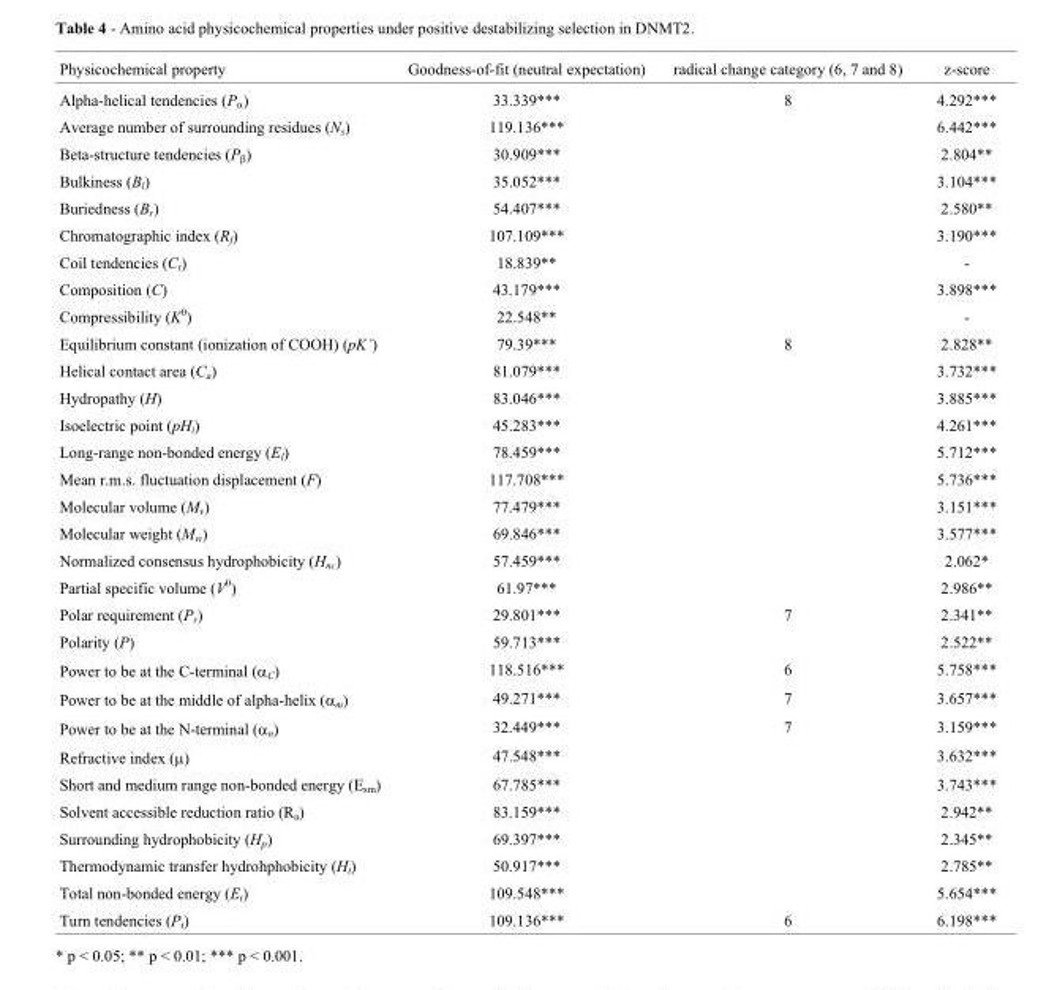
<table><thead><tr><td>Physicochemical property</td><td>Goodness-of-fit (neutral expectation)</td><td>radical change category (6, 7 and 8)</td><td>z-score</td></tr></thead><tbody><tr><td>Alpha-helical tendencies (P<sub>a</sub>)</td><td>33.339***</td><td>8</td><td>4.292***</td></tr><tr><td>Average number of surrounding residues (N<sub>s</sub>)</td><td>119.136***</td><td></td><td>6.442***</td></tr><tr><td>Beta-structure tendencies (P<sub>b</sub>)</td><td>30.909***</td><td></td><td>2.804**</td></tr><tr><td>Bulkiness (B<sub>l</sub>)</td><td>35.052***</td><td></td><td>3.104***</td></tr><tr><td>Buriedness (B<sub>r</sub>)</td><td>54.407***</td><td></td><td>2.580**</td></tr><tr><td>Chromatographic index (R<sub>f</sub>)</td><td>107.109***</td><td></td><td>3.190***</td></tr><tr><td>Coil tendencies (C<sub>t</sub>)</td><td>18.839**</td><td></td><td>-</td></tr><tr><td>Composition (C)</td><td>43.179***</td><td></td><td>3.898***</td></tr><tr><td>Compressibility (K<sup>0</sup>)</td><td>22.548**</td><td></td><td>-</td></tr><tr><td>Equilibrium constant (ionization of COOH) (pK’)</td><td>79.39***</td><td>8</td><td>2.828**</td></tr><tr><td>Helical contact area (C<sub>a</sub>)</td><td>81.079***</td><td></td><td>3.732***</td></tr><tr><td>Hydropathy (H)</td><td>83.046***</td><td></td><td>3.885***</td></tr><tr><td>Isoelectric point (pH<sub>i</sub>)</td><td>45.283***</td><td></td><td>4.261***</td></tr><tr><td>Long-range non-bonded energy (E<sub>l</sub>)</td><td>78.459***</td><td></td><td>5.712***</td></tr><tr><td>Mean r.m.s. fluctuation displacement (F)</td><td>117.708***</td><td></td><td>5.736***</td></tr><tr><td>Molecular volume (M<sub>v</sub>)</td><td>77.479***</td><td></td><td>3.151***</td></tr><tr><td>Molecular weight (M<sub>w</sub>)</td><td>69.846***</td><td></td><td>3.577***</td></tr><tr><td>Normalized consensus hydrophobicity (H<sub>nc</sub>)</td><td>57.459***</td><td></td><td>2.062*</td></tr><tr><td>Partial specific volume (V<sup>0</sup>)</td><td>61.97***</td><td></td><td>2.986**</td></tr><tr><td>Polar requirement (P<sub>r</sub>)</td><td>29.801***</td><td>7</td><td>2.341**</td></tr><tr><td>Polarity (P)</td><td>59.713***</td><td></td><td>2.522**</td></tr><tr><td>Power to be at the C-terminal (α<sub>C</sub>)</td><td>118.516***</td><td>6</td><td>5.758***</td></tr><tr><td>Power to be at the middle of alpha-helix (α<sub>m</sub>)</td><td>49.271***</td><td>7</td><td>3.657***</td></tr><tr><td>Power to be at the N-terminal (α<sub>n</sub>)</td><td>32.449***</td><td>7</td><td>3.159***</td></tr><tr><td>Refractive index (μ)</td><td>47.548***</td><td></td><td>3.632***</td></tr><tr><td>Short and medium range non-bonded energy (E<sub>sm</sub>)</td><td>67.785***</td><td></td><td>3.743***</td></tr><tr><td>Solvent accessible reduction ratio (R<sub>a</sub>)</td><td>83.159***</td><td></td><td>2.942**</td></tr><tr><td>Surrounding hydrophobicity (H<sub>p</sub>)</td><td>69.397***</td><td></td><td>2.345**</td></tr><tr><td>Thermodynamic transfer hydrohphobicity (H<sub>t</sub>)</td><td>50.917***</td><td></td><td>2.785**</td></tr><tr><td>Total non-bonded energy (E<sub>t</sub>)</td><td>109.548***</td><td></td><td>5.654***</td></tr><tr><td>Turn tendencies (P<sub>t</sub>)</td><td>109.136***</td><td>6</td><td>6.198***</td></tr></tbody></table>